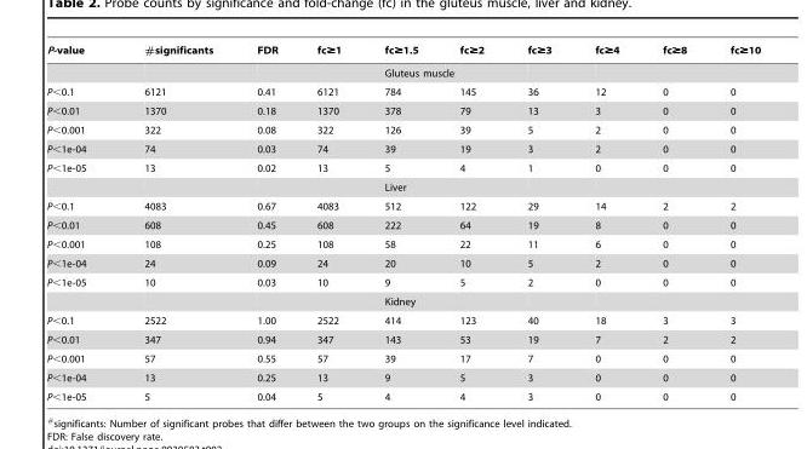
<table><thead><tr><td>P-value</td><td>#significants</td><td>FDR</td><td>fc≥1</td><td>fc≥1.5</td><td>fc≥2</td><td>fc≥3</td><td>fc≥4</td><td>fc≥8</td><td>fc≥10</td></tr></thead><tbody><tr><td></td><td></td><td></td><td></td><td>Gluteus muscle</td><td></td><td></td><td></td><td></td><td></td></tr><tr><td>P&lt;0.1</td><td>6121</td><td>0.41</td><td>6121</td><td>784</td><td>145</td><td>36</td><td>12</td><td>0</td><td>0</td></tr><tr><td>P&lt;0.01</td><td>1370</td><td>0.18</td><td>1370</td><td>378</td><td>79</td><td>13</td><td>3</td><td>0</td><td>0</td></tr><tr><td>P&lt;0.001</td><td>322</td><td>0.08</td><td>322</td><td>126</td><td>39</td><td>5</td><td>2</td><td>0</td><td>0</td></tr><tr><td>P&lt;1e-04</td><td>74</td><td>0.03</td><td>74</td><td>39</td><td>19</td><td>3</td><td>2</td><td>0</td><td>0</td></tr><tr><td rowspan="2">P&lt;1e-05</td><td>13</td><td>0.02</td><td>13</td><td>5</td><td>4</td><td>1</td><td>0</td><td>0</td><td>0</td></tr><tr><td></td><td></td><td></td><td>Liver</td><td></td><td></td><td></td><td></td><td></td></tr><tr><td>P&lt;0.1</td><td>4083</td><td>0.67</td><td>4083</td><td>512</td><td>122</td><td>29</td><td>14</td><td>2</td><td>2</td></tr><tr><td>P&lt;0.01</td><td>608</td><td>0.45</td><td>608</td><td>222</td><td>64</td><td>19</td><td>8</td><td>0</td><td>0</td></tr><tr><td>P&lt;0.001</td><td>108</td><td>0.25</td><td>108</td><td>58</td><td>22</td><td>11</td><td>6</td><td>0</td><td>0</td></tr><tr><td>P&lt;1e-04</td><td>24</td><td>0.09</td><td>24</td><td>20</td><td>10</td><td>5</td><td>2</td><td>0</td><td>0</td></tr><tr><td rowspan="2">P&lt;1e-05</td><td>10</td><td>0.03</td><td>10</td><td>9</td><td>5</td><td>2</td><td>0</td><td>0</td><td>0</td></tr><tr><td></td><td></td><td></td><td>Kidney</td><td></td><td></td><td></td><td></td><td></td></tr><tr><td>P&lt;0.1</td><td>2522</td><td>1.00</td><td>2522</td><td>414</td><td>123</td><td>40</td><td>18</td><td>3</td><td>3</td></tr><tr><td>P&lt;0.01</td><td>347</td><td>0.94</td><td>347</td><td>143</td><td>53</td><td>19</td><td>7</td><td>2</td><td>2</td></tr><tr><td>P&lt;0.001</td><td>57</td><td>0.55</td><td>57</td><td>39</td><td>17</td><td>7</td><td>0</td><td>0</td><td>0</td></tr><tr><td>P&lt;1e-04</td><td>13</td><td>0.25</td><td>13</td><td>9</td><td>5</td><td>3</td><td>0</td><td>0</td><td>0</td></tr><tr><td>P&lt;1e-05</td><td>5</td><td>0.04</td><td>5</td><td>4</td><td>4</td><td>3</td><td>0</td><td>0</td><td>0</td></tr></tbody></table>